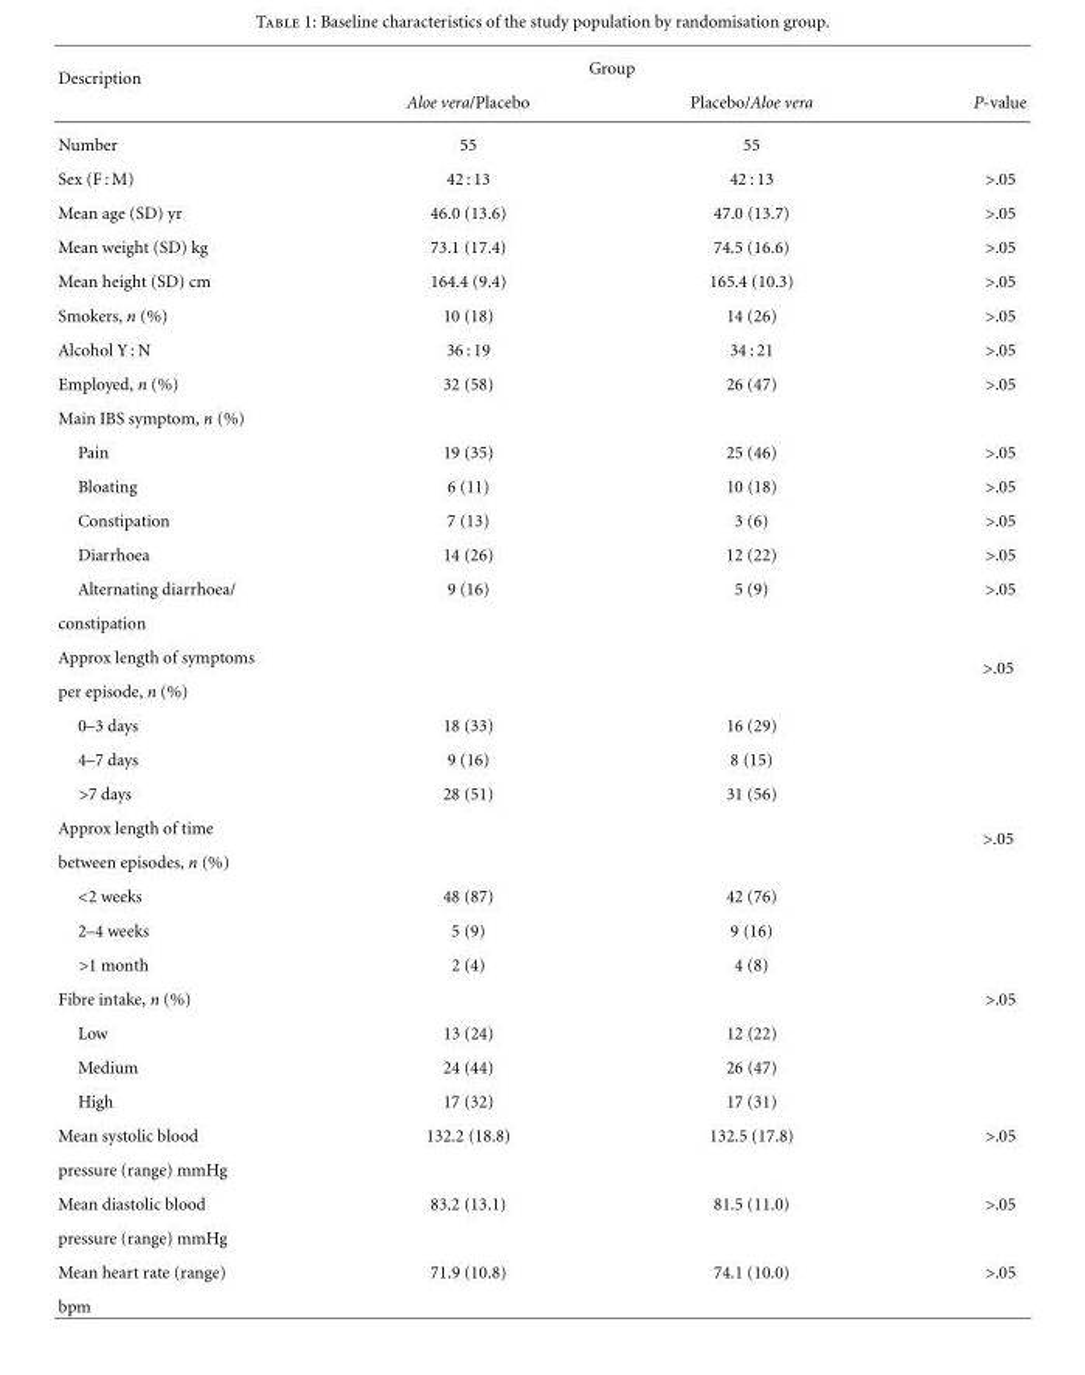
<table><thead><tr><td rowspan="2">Description</td><td colspan="2">Group</td><td rowspan="2">P-value</td></tr><tr><td>Aloe vera/Placebo</td><td>Placebo/Aloe vera</td></tr></thead><tbody><tr><td>Number</td><td>55</td><td>55</td><td></td></tr><tr><td>Sex (F : M)</td><td>42 : 13</td><td>42 : 13</td><td>&gt;.05</td></tr><tr><td>Mean age (SD) yr</td><td>46.0 (13.6)</td><td>47.0 (13.7)</td><td>&gt;.05</td></tr><tr><td>Mean weight (SD) kg</td><td>73.1 (17.4)</td><td>74.5 (16.6)</td><td>&gt;.05</td></tr><tr><td>Mean height (SD) cm</td><td>164.4 (9.4)</td><td>165.4 (10.3)</td><td>&gt;.05</td></tr><tr><td>Smokers, n (%)</td><td>10 (18)</td><td>14 (26)</td><td>&gt;.05</td></tr><tr><td>Alcohol Y : N</td><td>36 : 19</td><td>34 : 21</td><td>&gt;.05</td></tr><tr><td>Employed, n (%)</td><td>32 (58)</td><td>26 (47)</td><td>&gt;.05</td></tr><tr><td colspan="4">Main IBS symptom, n (%)</td></tr><tr><td>Pain</td><td>19 (35)</td><td>25 (46)</td><td>&gt;.05</td></tr><tr><td>Bloating</td><td>6 (11)</td><td>10 (18)</td><td>&gt;.05</td></tr><tr><td>Constipation</td><td>7 (13)</td><td>3 (6)</td><td>&gt;.05</td></tr><tr><td>Diarrhoea</td><td>14 (26)</td><td>12 (22)</td><td>&gt;.05</td></tr><tr><td>Alternating diarrhoea/</td><td>9 (16)</td><td>5 (9)</td><td>&gt;.05</td></tr><tr><td colspan="4">constipation</td></tr><tr><td colspan="3">Approx length of symptoms</td><td rowspan="2">&gt;.05</td></tr><tr><td colspan="3">per episode, n (%)</td></tr><tr><td>0–3 days</td><td>18 (33)</td><td>16 (29)</td><td></td></tr><tr><td>4–7 days</td><td>9 (16)</td><td>8 (15)</td><td></td></tr><tr><td>&gt;7 days</td><td>28 (51)</td><td>31 (56)</td><td></td></tr><tr><td colspan="3">Approx length of time</td><td rowspan="2">&gt;.05</td></tr><tr><td colspan="3">between episodes, n (%)</td></tr><tr><td>&lt;2 weeks</td><td>48 (87)</td><td>42 (76)</td><td></td></tr><tr><td>2–4 weeks</td><td>5 (9)</td><td>9 (16)</td><td></td></tr><tr><td>&gt;1 month</td><td>2 (4)</td><td>4 (8)</td><td></td></tr><tr><td>Fibre intake, n (%)</td><td></td><td></td><td>&gt;.05</td></tr><tr><td>Low</td><td>13 (24)</td><td>12 (22)</td><td></td></tr><tr><td>Medium</td><td>24 (44)</td><td>26 (47)</td><td></td></tr><tr><td>High</td><td>17 (32)</td><td>17 (31)</td><td></td></tr><tr><td>Mean systolic blood</td><td>132.2 (18.8)</td><td>132.5 (17.8)</td><td>&gt;.05</td></tr><tr><td colspan="4">pressure (range) mmHg</td></tr><tr><td>Mean diastolic blood</td><td>83.2 (13.1)</td><td>81.5 (11.0)</td><td>&gt;.05</td></tr><tr><td colspan="4">pressure (range) mmHg</td></tr><tr><td>Mean heart rate (range)</td><td>71.9 (10.8)</td><td>74.1 (10.0)</td><td>&gt;.05</td></tr><tr><td>bpm</td><td></td><td></td><td></td></tr></tbody></table>